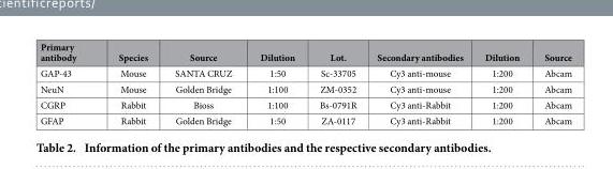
<table><thead><tr><td>Primary antibody</td><td>Species</td><td>Source</td><td>Dilution</td><td>Lot.</td><td>Secondary antibodies</td><td>Dilution</td><td>Source</td></tr></thead><tbody><tr><td>GAP-43</td><td>Mouse</td><td>SANTA CRUZ</td><td>1:50</td><td>Sc-33705</td><td>Cy3 anti-mouse</td><td>1:200</td><td>Abcam</td></tr><tr><td>NeuN</td><td>Mouse</td><td>Golden Bridge</td><td>1:100</td><td>ZM-0352</td><td>Cy3 anti-mouse</td><td>1:200</td><td>Abcam</td></tr><tr><td>CGRP</td><td>Rabbit</td><td>Bioss</td><td>1:100</td><td>Bs-0791R</td><td>Cy3 anti-Rabbit</td><td>1:200</td><td>Abcam</td></tr><tr><td>GFAP</td><td>Rabbit</td><td>Golden Bridge</td><td>1:50</td><td>ZA-0117</td><td>Cy3 anti-Rabbit</td><td>1:200</td><td>Abcam</td></tr></tbody></table>